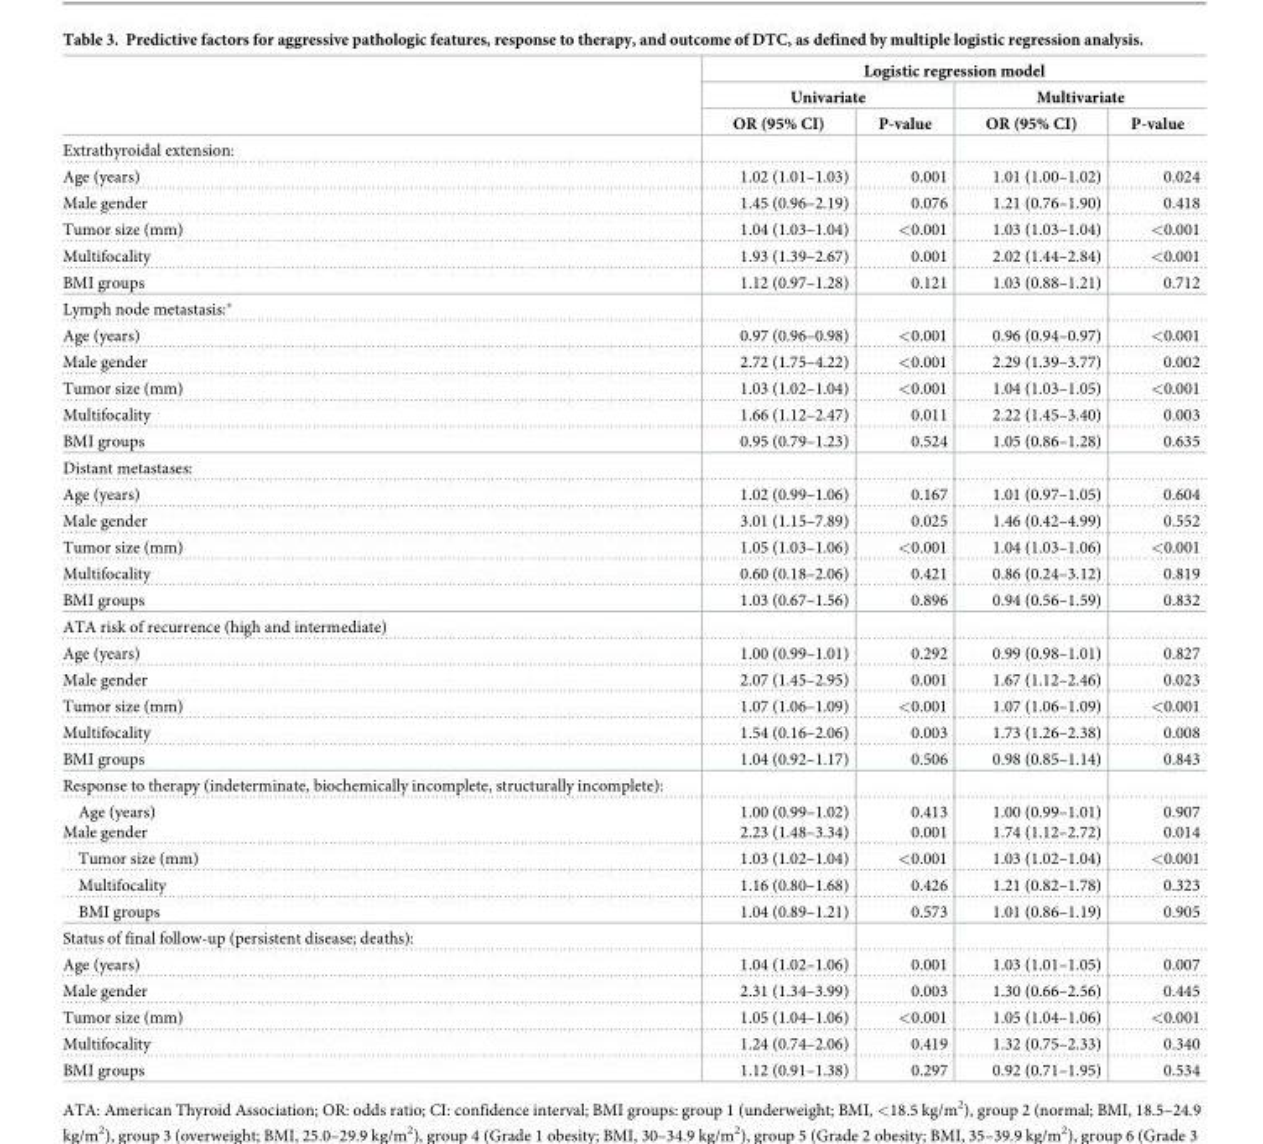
<table><thead><tr><td rowspan="3"></td><td colspan="4">Logistic regression model</td></tr><tr><td colspan="2">Univariate</td><td colspan="2">Multivariate</td></tr><tr><td>OR (95% CI)</td><td>P-value</td><td>OR (95% CI)</td><td>P-value</td></tr></thead><tbody><tr><td colspan="5">Extrathyroidal extension:</td></tr><tr><td>Age (years)</td><td>1.02 (1.01–1.03)</td><td>0.001</td><td>1.01 (1.00–1.02)</td><td>0.024</td></tr><tr><td>Male gender</td><td>1.45 (0.96–2.19)</td><td>0.076</td><td>1.21 (0.76–1.90)</td><td>0.418</td></tr><tr><td>Tumor size (mm)</td><td>1.04 (1.03–1.04)</td><td>&lt;0.001</td><td>1.03 (1.03–1.04)</td><td>&lt;0.001</td></tr><tr><td>Multifocality</td><td>1.93 (1.39–2.67)</td><td>0.001</td><td>2.02 (1.44–2.84)</td><td>&lt;0.001</td></tr><tr><td>BMI groups</td><td>1.12 (0.97–1.28)</td><td>0.121</td><td>1.03 (0.88–1.21)</td><td>0.712</td></tr><tr><td colspan="5">Lymph node metastasis:*</td></tr><tr><td>Age (years)</td><td>0.97 (0.96–0.98)</td><td>&lt;0.001</td><td>0.96 (0.94–0.97)</td><td>&lt;0.001</td></tr><tr><td>Male gender</td><td>2.72 (1.75–4.22)</td><td>&lt;0.001</td><td>2.29 (1.39–3.77)</td><td>0.002</td></tr><tr><td>Tumor size (mm)</td><td>1.03 (1.02–1.04)</td><td>&lt;0.001</td><td>1.04 (1.03–1.05)</td><td>&lt;0.001</td></tr><tr><td>Multifocality</td><td>1.66 (1.12–2.47)</td><td>0.011</td><td>2.22 (1.45–3.40)</td><td>0.003</td></tr><tr><td>BMI groups</td><td>0.95 (0.79–1.23)</td><td>0.524</td><td>1.05 (0.86–1.28)</td><td>0.635</td></tr><tr><td colspan="5">Distant metastases:</td></tr><tr><td>Age (years)</td><td>1.02 (0.99–1.06)</td><td>0.167</td><td>1.01 (0.97–1.05)</td><td>0.604</td></tr><tr><td>Male gender</td><td>3.01 (1.15–7.89)</td><td>0.025</td><td>1.46 (0.42–4.99)</td><td>0.552</td></tr><tr><td>Tumor size (mm)</td><td>1.05 (1.03–1.06)</td><td>&lt;0.001</td><td>1.04 (1.03–1.06)</td><td>&lt;0.001</td></tr><tr><td>Multifocality</td><td>0.60 (0.18–2.06)</td><td>0.421</td><td>0.86 (0.24–3.12)</td><td>0.819</td></tr><tr><td>BMI groups</td><td>1.03 (0.67–1.56)</td><td>0.896</td><td>0.94 (0.56–1.59)</td><td>0.832</td></tr><tr><td colspan="5">ATA risk of recurrence (high and intermediate)</td></tr><tr><td>Age (years)</td><td>1.00 (0.99–1.01)</td><td>0.292</td><td>0.99 (0.98–1.01)</td><td>0.827</td></tr><tr><td>Male gender</td><td>2.07 (1.45–2.95)</td><td>0.001</td><td>1.67 (1.12–2.46)</td><td>0.023</td></tr><tr><td>Tumor size (mm)</td><td>1.07 (1.06–1.09)</td><td>&lt;0.001</td><td>1.07 (1.06–1.09)</td><td>&lt;0.001</td></tr><tr><td>Multifocality</td><td>1.54 (0.16–2.06)</td><td>0.003</td><td>1.73 (1.26–2.38)</td><td>0.008</td></tr><tr><td>BMI groups</td><td>1.04 (0.92–1.17)</td><td>0.506</td><td>0.98 (0.85–1.14)</td><td>0.843</td></tr><tr><td colspan="5">Response to therapy (indeterminate, biochemically incomplete, structurally incomplete):</td></tr><tr><td>Age (years) Male gender</td><td>1.00 (0.99–1.02) 2.23 (1.48–3.34)</td><td>0.413 0.001</td><td>1.00 (0.99–1.01) 1.74 (1.12–2.72)</td><td>0.907 0.014</td></tr><tr><td>Tumor size (mm)</td><td>1.03 (1.02–1.04)</td><td>&lt;0.001</td><td>1.03 (1.02–1.04)</td><td>&lt;0.001</td></tr><tr><td>Multifocality</td><td>1.16 (0.80–1.68)</td><td>0.426</td><td>1.21 (0.82–1.78)</td><td>0.323</td></tr><tr><td>BMI groups</td><td>1.04 (0.89–1.21)</td><td>0.573</td><td>1.01 (0.86–1.19)</td><td>0.905</td></tr><tr><td colspan="5">Status of final follow-up (persistent disease; deaths):</td></tr><tr><td>Age (years)</td><td>1.04 (1.02–1.06)</td><td>0.001</td><td>1.03 (1.01–1.05)</td><td>0.007</td></tr><tr><td>Male gender</td><td>2.31 (1.34–3.99)</td><td>0.003</td><td>1.30 (0.66–2.56)</td><td>0.445</td></tr><tr><td>Tumor size (mm)</td><td>1.05 (1.04–1.06)</td><td>&lt;0.001</td><td>1.05 (1.04–1.06)</td><td>&lt;0.001</td></tr><tr><td>Multifocality</td><td>1.24 (0.74–2.06)</td><td>0.419</td><td>1.32 (0.75–2.33)</td><td>0.340</td></tr><tr><td>BMI groups</td><td>1.12 (0.91–1.38)</td><td>0.297</td><td>0.92 (0.71–1.95)</td><td>0.534</td></tr></tbody></table>